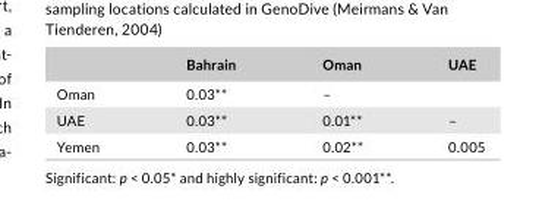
<table><thead><tr><td></td><td>Bahrain</td><td>Oman</td><td>UAE</td></tr></thead><tbody><tr><td>Oman</td><td>0.03**</td><td>–</td><td></td></tr><tr><td>UAE</td><td>0.03**</td><td>0.01**</td><td>–</td></tr><tr><td>Yemen</td><td>0.03**</td><td>0.02**</td><td>0.005</td></tr></tbody></table>